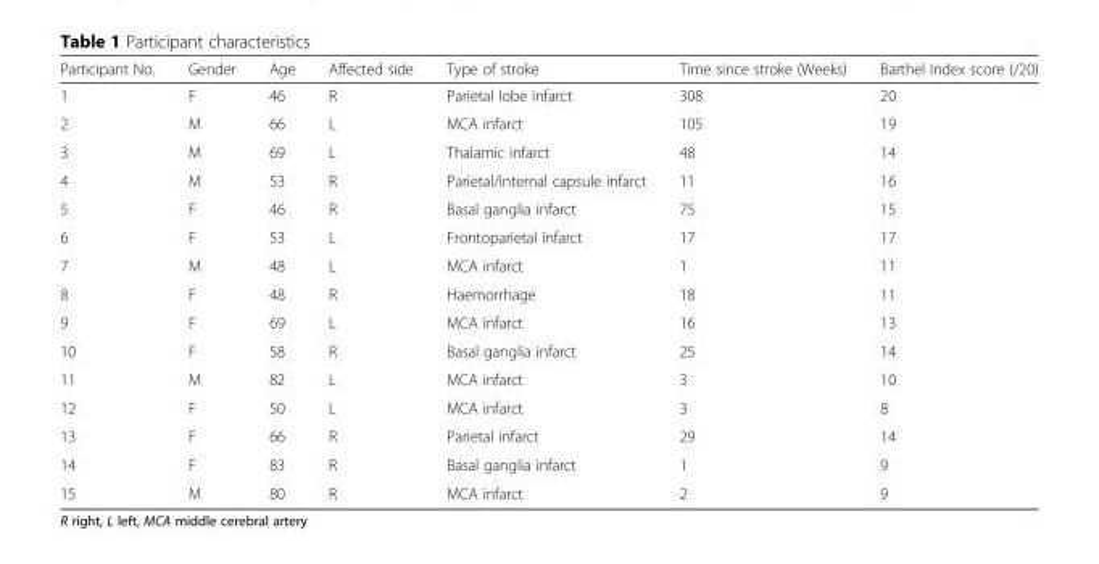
<table><thead><tr><td>Participant No.</td><td>Gender</td><td>Age</td><td>Affected side</td><td>Type of stroke</td><td>Time since stroke (Weeks)</td><td>Barthel Index score (/20)</td></tr></thead><tbody><tr><td>1</td><td>F</td><td>46</td><td>R</td><td>Parietal lobe infarct</td><td>308</td><td>20</td></tr><tr><td>2</td><td>M</td><td>66</td><td>L</td><td>MCA infarct</td><td>105</td><td>19</td></tr><tr><td>3</td><td>M</td><td>69</td><td>L</td><td>Thalamic infarct</td><td>48</td><td>14</td></tr><tr><td>4</td><td>M</td><td>53</td><td>R</td><td>Parietal/internal capsule infarct</td><td>11</td><td>16</td></tr><tr><td>5</td><td>F</td><td>46</td><td>R</td><td>Basal ganglia infarct</td><td>75</td><td>15</td></tr><tr><td>6</td><td>F</td><td>53</td><td>L</td><td>Frontoparietal infarct</td><td>17</td><td>17</td></tr><tr><td>7</td><td>M</td><td>48</td><td>L</td><td>MCA infarct</td><td>1</td><td>11</td></tr><tr><td>8</td><td>F</td><td>48</td><td>R</td><td>Haemorrhage</td><td>18</td><td>11</td></tr><tr><td>9</td><td>F</td><td>69</td><td>L</td><td>MCA infarct</td><td>16</td><td>13</td></tr><tr><td>10</td><td>F</td><td>58</td><td>R</td><td>Basal ganglia infarct</td><td>25</td><td>14</td></tr><tr><td>11</td><td>M</td><td>82</td><td>L</td><td>MCA infarct</td><td>3</td><td>10</td></tr><tr><td>12</td><td>F</td><td>50</td><td>L</td><td>MCA infarct</td><td>3</td><td>8</td></tr><tr><td>13</td><td>F</td><td>66</td><td>R</td><td>Parietal infarct</td><td>29</td><td>14</td></tr><tr><td>14</td><td>F</td><td>83</td><td>R</td><td>Basal ganglia infarct</td><td>1</td><td>9</td></tr><tr><td>15</td><td>M</td><td>80</td><td>R</td><td>MCA infarct</td><td>2</td><td>9</td></tr></tbody></table>